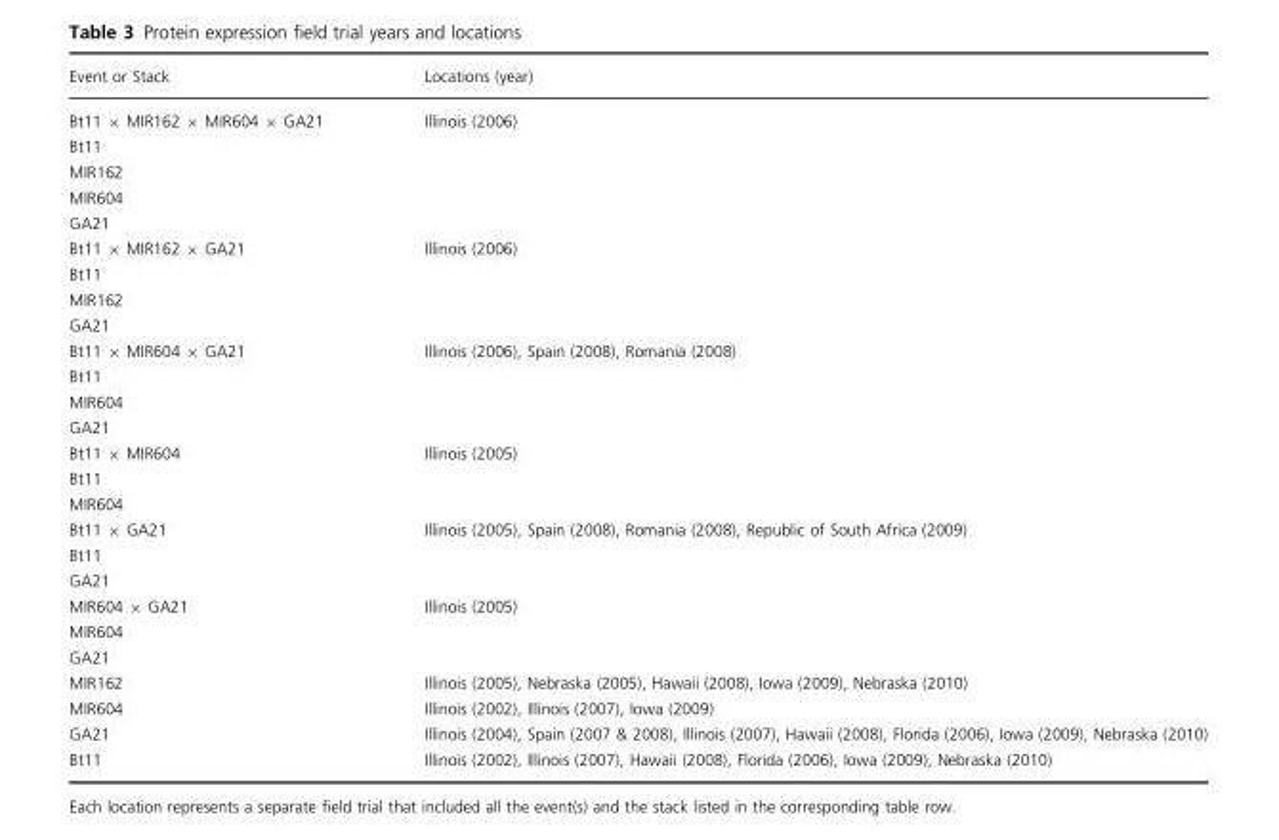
<table><thead><tr><td>Event or Stack</td><td>Locations (year)</td></tr></thead><tbody><tr><td>Bt11 × MIR162 × MIR604 × GA21</td><td rowspan="5">Illinois (2006)</td></tr><tr><td>Bt11</td></tr><tr><td>MIR162</td></tr><tr><td>MIR604</td></tr><tr><td>GA21</td></tr><tr><td>Bt11 × MIR162 × GA21</td><td rowspan="4">Illinois (2006)</td></tr><tr><td>Bt11</td></tr><tr><td>MIR162</td></tr><tr><td>GA21</td></tr><tr><td>Bt11 × MIR604 × GA21</td><td rowspan="4">Illinois (2006), Spain (2008), Romania (2008)</td></tr><tr><td>Bt11</td></tr><tr><td>MIR604</td></tr><tr><td>GA21</td></tr><tr><td>Bt11 × MIR604</td><td rowspan="3">Illinois (2005)</td></tr><tr><td>Bt11</td></tr><tr><td>MIR604</td></tr><tr><td>Bt11 × GA21</td><td rowspan="3">Illinois (2005), Spain (2008), Romania (2008), Republic of South Africa (2009)</td></tr><tr><td>Bt11</td></tr><tr><td>GA21</td></tr><tr><td>MIR604 × GA21</td><td rowspan="3">Illinois (2005)</td></tr><tr><td>MIR604</td></tr><tr><td>GA21</td></tr><tr><td>MIR162</td><td>Illinois (2005), Nebraska (2005), Hawaii (2008), Iowa (2009), Nebraska (2010)</td></tr><tr><td>MIR604</td><td>Illinois (2002), Illinois (2007), Iowa (2009)</td></tr><tr><td>GA21</td><td>Illinois (2004), Spain (2007 &amp; 2008), Illinois (2007), Hawaii (2008), Florida (2006), Iowa (2009), Nebraska (2010)</td></tr><tr><td>Bt11</td><td>Illinois (2002), Illinois (2007), Hawaii (2008), Florida (2006), Iowa (2009), Nebraska (2010)</td></tr></tbody></table>